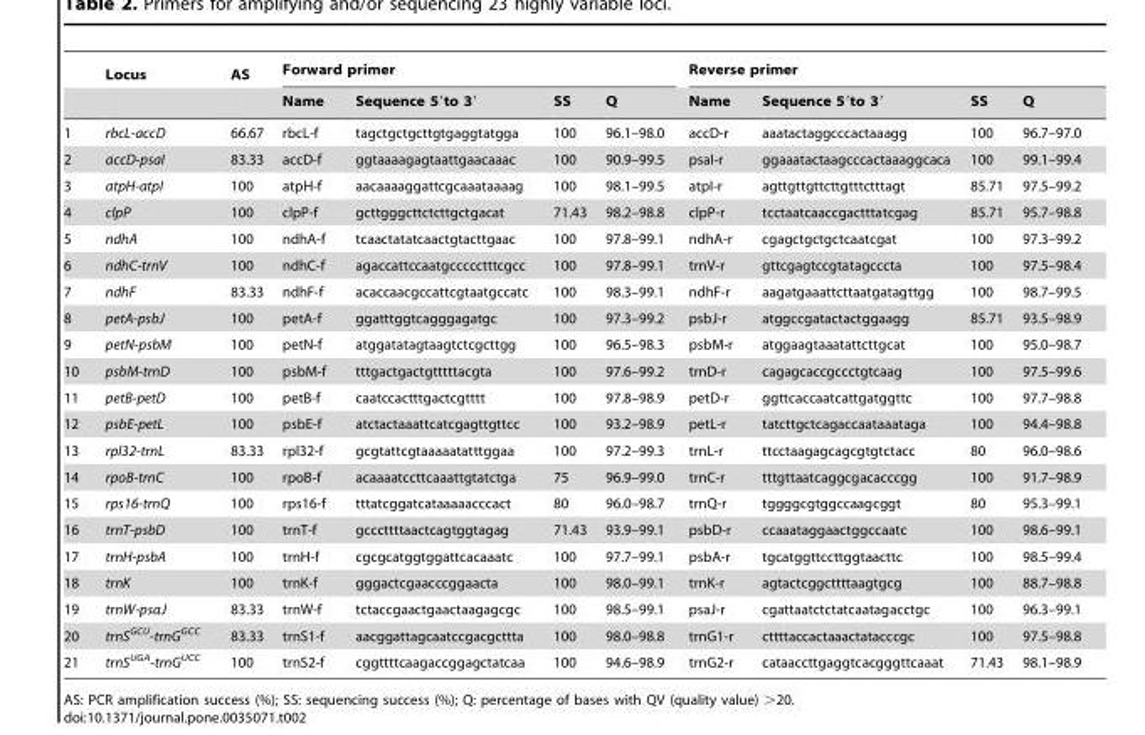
<table><thead><tr><td rowspan="2"></td><td rowspan="2">Locus</td><td rowspan="2">AS</td><td colspan="4">Forward primer</td><td colspan="4">Reverse primer</td></tr><tr><td>Name</td><td>Sequence 5′to 3′</td><td>SS</td><td>Q</td><td>Name</td><td>Sequence 5′to 3′</td><td>SS</td><td>Q</td></tr></thead><tbody><tr><td>1</td><td>rbcL-accD</td><td>66.67</td><td>rbcL-f</td><td>tagctgctgcttgtgaggtatgga</td><td>100</td><td>96.1–98.0</td><td>accD-r</td><td>aaatactaggcccactaaagg</td><td>100</td><td>96.7–97.0</td></tr><tr><td>2</td><td>accD-psaI</td><td>83.33</td><td>accD-f</td><td>ggtaaaagagtaattgaacaaac</td><td>100</td><td>90.9–99.5</td><td>psaI-r</td><td>ggaaatactaagcccactaaaggcaca</td><td>100</td><td>99.1–99.4</td></tr><tr><td>3</td><td>atpH-atpI</td><td>100</td><td>atpH-f</td><td>aacaaaaggattcgcaaataaaag</td><td>100</td><td>98.1–99.5</td><td>atpI-r</td><td>agttgttgttcttgtttctttagt</td><td>85.71</td><td>97.5–99.2</td></tr><tr><td>4</td><td>clpP</td><td>100</td><td>clpP-f</td><td>gcttgggcttctcttgctgacat</td><td>71.43</td><td>98.2–98.8</td><td>clpP-r</td><td>tcctaatcaaccgactttatcgag</td><td>85.71</td><td>95.7–98.8</td></tr><tr><td>5</td><td>ndhA</td><td>100</td><td>ndhA-f</td><td>tcaactatatcaactgtacttgaac</td><td>100</td><td>97.8–99.1</td><td>ndhA-r</td><td>cgagctgctgctcaatcgat</td><td>100</td><td>97.3–99.2</td></tr><tr><td>6</td><td>ndhC-trnV</td><td>100</td><td>ndhC-f</td><td>agaccattccaatgccccctttcgcc</td><td>100</td><td>97.8–99.1</td><td>trnV-r</td><td>gttcgagtccgtatagcccta</td><td>100</td><td>97.5–98.4</td></tr><tr><td>7</td><td>ndhF</td><td>83.33</td><td>ndhF-f</td><td>acaccaacgccattcgtaatgccatc</td><td>100</td><td>98.3–99.1</td><td>ndhF-r</td><td>aagatgaaattcttaatgatagttgg</td><td>100</td><td>98.7–99.5</td></tr><tr><td>8</td><td>petA-psbJ</td><td>100</td><td>petA-f</td><td>ggatttggtcagggagatgc</td><td>100</td><td>97.3–99.2</td><td>psbJ-r</td><td>atggccgatactactggaagg</td><td>85.71</td><td>93.5–98.9</td></tr><tr><td>9</td><td>petN-psbM</td><td>100</td><td>petN-f</td><td>atggatatagtaagtctcgcttgg</td><td>100</td><td>96.5–98.3</td><td>psbM-r</td><td>atggaagtaaatattcttgcat</td><td>100</td><td>95.0–98.7</td></tr><tr><td>10</td><td>psbM-trnD</td><td>100</td><td>psbM-f</td><td>tttgactgactgtttttacgta</td><td>100</td><td>97.6–99.2</td><td>trnD-r</td><td>cagagcaccgccctgtcaag</td><td>100</td><td>97.5–99.6</td></tr><tr><td>11</td><td>petB-petD</td><td>100</td><td>petB-f</td><td>caatccactttgactcgtttt</td><td>100</td><td>97.8–98.9</td><td>petD-r</td><td>ggttcaccaatcattgatggttc</td><td>100</td><td>97.7–98.8</td></tr><tr><td>12</td><td>psbE-petL</td><td>100</td><td>psbE-f</td><td>atctactaaattcatcgagttgttcc</td><td>100</td><td>93.2–98.9</td><td>petL-r</td><td>tatcttgctcagaccaataaataga</td><td>100</td><td>94.4–98.8</td></tr><tr><td>13</td><td>rpl32-trnL</td><td>83.33</td><td>rpl32-f</td><td>gcgtattcgtaaaaatatttggaa</td><td>100</td><td>97.2–99.3</td><td>trnL-r</td><td>ttcctaagagcagcgtgtctacc</td><td>80</td><td>96.0–98.6</td></tr><tr><td>14</td><td>rpoB-trnC</td><td>100</td><td>rpoB-f</td><td>acaaaatccttcaaattgtatctga</td><td>75</td><td>96.9–99.0</td><td>trnC-r</td><td>tttgttaatcaggcgacacccgg</td><td>100</td><td>91.7–98.9</td></tr><tr><td>15</td><td>rps16-trnQ</td><td>100</td><td>rps16-f</td><td>tttatcggatcataaaaacccact</td><td>80</td><td>96.0–98.7</td><td>trnQ-r</td><td>tggggcgtggccaagcggt</td><td>80</td><td>95.3–99.1</td></tr><tr><td>16</td><td>trnT-psbD</td><td>100</td><td>trnT-f</td><td>gcccttttaactcagtggtagag</td><td>71.43</td><td>93.9–99.1</td><td>psbD-r</td><td>ccaaataggaactggccaatc</td><td>100</td><td>98.6–99.1</td></tr><tr><td>17</td><td>trnH-psbA</td><td>100</td><td>trnH-f</td><td>cgcgcatggtggattcacaaatc</td><td>100</td><td>97.7–99.1</td><td>psbA-r</td><td>tgcatggttccttggtaacttc</td><td>100</td><td>98.5–99.4</td></tr><tr><td>18</td><td>trnK</td><td>100</td><td>trnK-f</td><td>gggactcgaacccggaacta</td><td>100</td><td>98.0–99.1</td><td>trnK-r</td><td>agtactcggcttttaagtgcg</td><td>100</td><td>88.7–98.8</td></tr><tr><td>19</td><td>trnW-psaJ</td><td>83.33</td><td>trnW-f</td><td>tctaccgaactgaactaagagcgc</td><td>100</td><td>98.5–99.1</td><td>psaJ-r</td><td>cgattaatctctatcaatagacctgc</td><td>100</td><td>96.3–99.1</td></tr><tr><td>20</td><td>trnS<sup>GCU</sup>-trnG<sup>GCC</sup></td><td>83.33</td><td>trnS1-f</td><td>aacggattagcaatccgacgcttta</td><td>100</td><td>98.0–98.8</td><td>trnG1-r</td><td>cttttaccactaaactatacccgc</td><td>100</td><td>97.5–98.8</td></tr><tr><td>21</td><td>trnS<sup>UGA</sup>-trnG<sup>UCC</sup></td><td>100</td><td>trnS2-f</td><td>cggttttcaagaccggagctatcaa</td><td>100</td><td>94.6–98.9</td><td>trnG2-r</td><td>cataaccttgaggtcacgggttcaaat</td><td>71.43</td><td>98.1–98.9</td></tr></tbody></table>